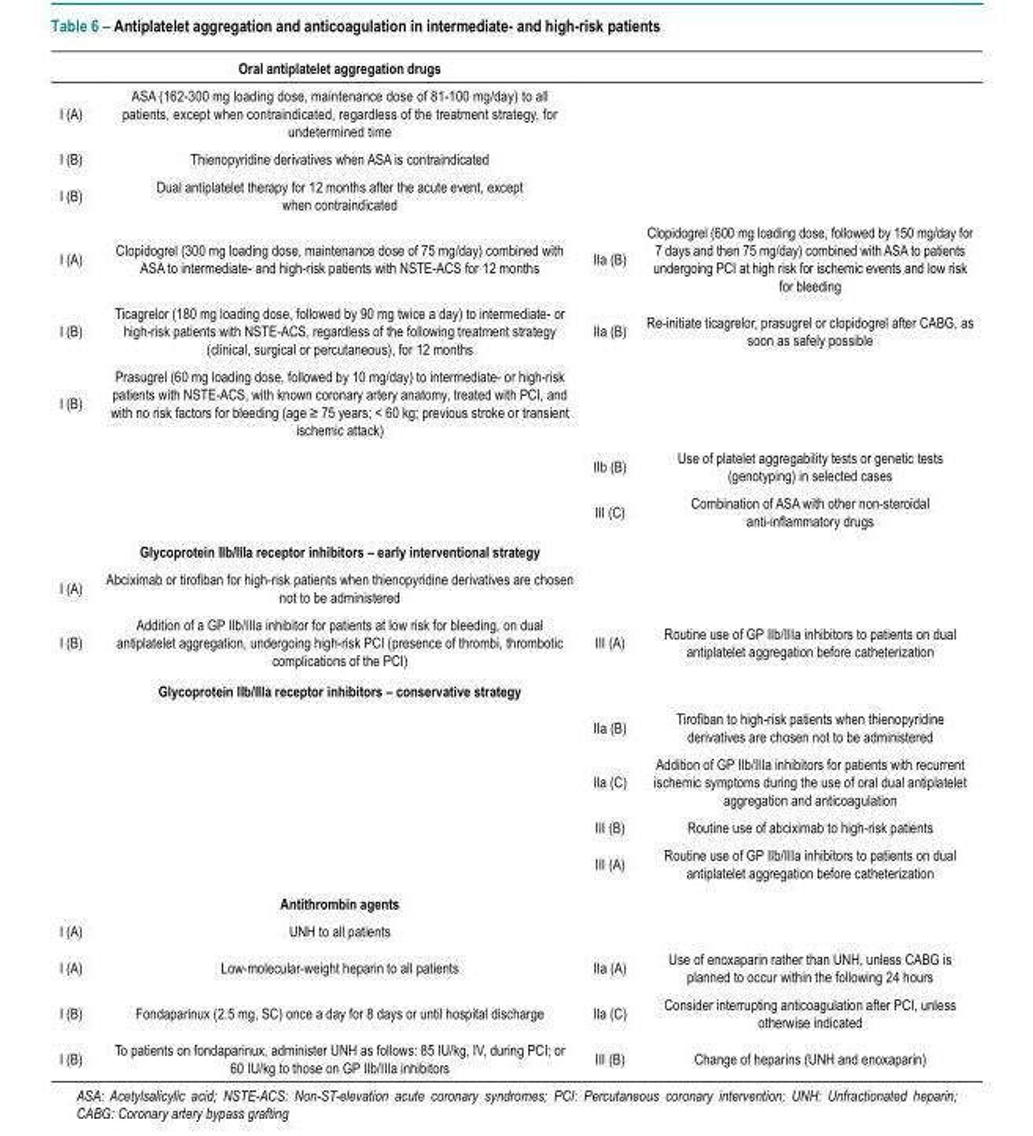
<table><thead><tr><td></td><td>Oral antiplatelet aggregation drugs</td><td></td><td></td></tr></thead><tbody><tr><td>I (A)</td><td>ASA (162-300 mg loading dose, maintenance dose of 81-100 mg/day) to all patients, except when contraindicated, regardless of the treatment strategy, for undetermined time</td><td></td><td></td></tr><tr><td>I (B)</td><td>Thienopyridine derivatives when ASA is contraindicated</td><td></td><td></td></tr><tr><td>I (B)</td><td>Dual antiplatelet therapy for 12 months after the acute event, except when contraindicated</td><td></td><td></td></tr><tr><td>I (A)</td><td>Clopidogrel (300 mg loading dose, maintenance dose of 75 mg/day) combined with ASA to intermediate- and high-risk patients with NSTE-ACS for 12 months</td><td>IIa (B)</td><td>Clopidogrel (600 mg loading dose, followed by 150 mg/day for 7 days and then 75 mg/day) combined with ASA to patients undergoing PCI at high risk for ischemic events and low risk for bleeding</td></tr><tr><td>I (B)</td><td>Ticagrelor (180 mg loading dose, followed by 90 mg twice a day) to intermediate- or high-risk patients with NSTE-ACS, regardless of the following treatment strategy (clinical, surgical or percutaneous), for 12 months</td><td>IIa (B)</td><td>Re-initiate ticagrelor, prasugrel or clopidogrel after CABG, as soon as safely possible</td></tr><tr><td rowspan="4">I (B)</td><td>Prasugrel (60 mg loading dose, followed by 10 mg/day) to intermediate- or high-risk patients with NSTE-ACS, with known coronary artery anatomy, treated with PCI, and with no risk factors for bleeding (age ≥ 75 years; &lt; 60 kg; previous stroke or transient ischemic attack)</td><td></td><td></td></tr><tr><td></td><td>IIb (B)</td><td>Use of platelet aggregability tests or genetic tests (genotyping) in selected cases</td></tr><tr><td></td><td>III (C)</td><td>Combination of ASA with other non-steroidal anti-inflammatory drugs</td></tr><tr><td>Glycoprotein IIb/IIIa receptor inhibitors – early interventional strategy</td><td></td><td></td></tr><tr><td>I (A)</td><td>Abciximab or tirofiban for high-risk patients when thienopyridine derivatives are chosen not to be administered</td><td></td><td></td></tr><tr><td rowspan="7">I (B)</td><td>Addition of a GP IIb/IIIa inhibitor for patients at low risk for bleeding, on dual antiplatelet aggregation, undergoing high-risk PCI (presence of thrombi, thrombotic complications of the PCI)</td><td>III (A)</td><td>Routine use of GP IIb/IIIa inhibitors to patients on dual antiplatelet aggregation before catheterization</td></tr><tr><td>Glycoprotein IIb/IIIa receptor inhibitors – conservative strategy</td><td></td><td></td></tr><tr><td></td><td>IIa (B)</td><td>Tirofiban to high-risk patients when thienopyridine derivatives are chosen not to be administered</td></tr><tr><td></td><td>IIa (C)</td><td>Addition of GP IIb/IIIa inhibitors for patients with recurrent ischemic symptoms during the use of oral dual antiplatelet aggregation and anticoagulation</td></tr><tr><td></td><td>III (B)</td><td>Routine use of abciximab to high-risk patients</td></tr><tr><td></td><td>III (A)</td><td>Routine use of GP IIb/IIIa inhibitors to patients on dual antiplatelet aggregation before catheterization</td></tr><tr><td>Antithrombin agents</td><td></td><td></td></tr><tr><td>I (A)</td><td>UNH to all patients</td><td></td><td></td></tr><tr><td>I (A)</td><td>Low-molecular-weight heparin to all patients</td><td>IIa (A)</td><td>Use of enoxaparin rather than UNH, unless CABG is planned to occur within the following 24 hours</td></tr><tr><td>I (B)</td><td>Fondaparinux (2.5 mg, SC) once a day for 8 days or until hospital discharge</td><td>IIa (C)</td><td>Consider interrupting anticoagulation after PCI, unless otherwise indicated</td></tr><tr><td>I (B)</td><td>To patients on fondaparinux, administer UNH as follows: 85 IU/kg, IV, during PCI; or 60 IU/kg to those on GP IIb/IIIa inhibitors</td><td>III (B)</td><td>Change of heparins (UNH and enoxaparin)</td></tr></tbody></table>